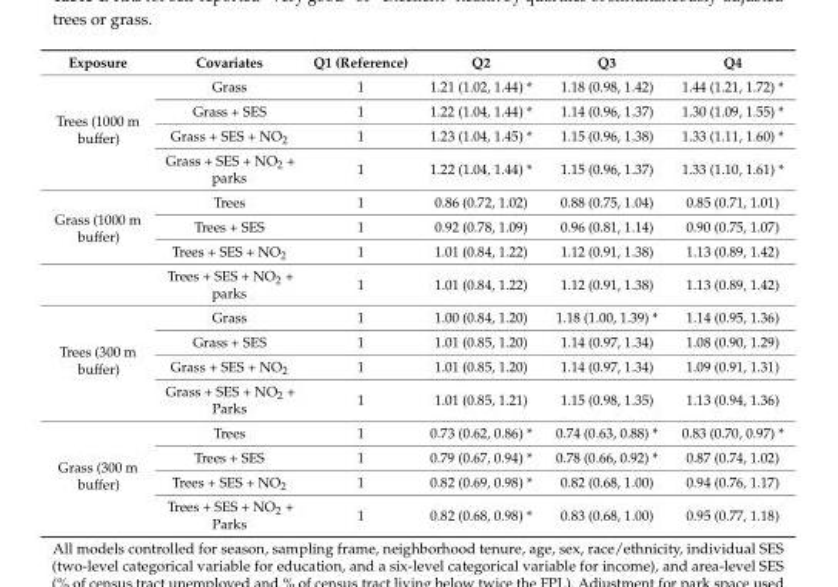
<table><thead><tr><td>Exposure</td><td>Covariates</td><td>Q1 (Reference)</td><td>Q2</td><td>Q3</td><td>Q4</td></tr></thead><tbody><tr><td rowspan="4">Trees (1000 m buffer)</td><td>Grass</td><td>1</td><td>1.21 (1.02, 1.44) *</td><td>1.18 (0.98, 1.42)</td><td>1.44 (1.21, 1.72) *</td></tr><tr><td>Grass + SES</td><td>1</td><td>1.22 (1.04, 1.44) *</td><td>1.14 (0.96, 1.37)</td><td>1.30 (1.09, 1.55) *</td></tr><tr><td>Grass + SES + NO<sub>2</sub></td><td>1</td><td>1.23 (1.04, 1.45) *</td><td>1.15 (0.96, 1.38)</td><td>1.33 (1.11, 1.60) *</td></tr><tr><td>Grass + SES + NO<sub>2</sub> + parks</td><td>1</td><td>1.22 (1.04, 1.44) *</td><td>1.15 (0.96, 1.37)</td><td>1.33 (1.10, 1.61) *</td></tr><tr><td rowspan="4">Grass (1000 m buffer)</td><td>Trees</td><td>1</td><td>0.86 (0.72, 1.02)</td><td>0.88 (0.75, 1.04)</td><td>0.85 (0.71, 1.01)</td></tr><tr><td>Trees + SES</td><td>1</td><td>0.92 (0.78, 1.09)</td><td>0.96 (0.81, 1.14)</td><td>0.90 (0.75, 1.07)</td></tr><tr><td>Trees + SES + NO<sub>2</sub></td><td>1</td><td>1.01 (0.84, 1.22)</td><td>1.12 (0.91, 1.38)</td><td>1.13 (0.89, 1.42)</td></tr><tr><td>Trees + SES + NO<sub>2</sub> + parks</td><td>1</td><td>1.01 (0.84, 1.22)</td><td>1.12 (0.91, 1.38)</td><td>1.13 (0.89, 1.42)</td></tr><tr><td rowspan="4">Trees (300 m buffer)</td><td>Grass</td><td>1</td><td>1.00 (0.84, 1.20)</td><td>1.18 (1.00, 1.39) *</td><td>1.14 (0.95, 1.36)</td></tr><tr><td>Grass + SES</td><td>1</td><td>1.01 (0.85, 1.20)</td><td>1.14 (0.97, 1.34)</td><td>1.08 (0.90, 1.29)</td></tr><tr><td>Grass + SES + NO<sub>2</sub></td><td>1</td><td>1.01 (0.85, 1.20)</td><td>1.14 (0.97, 1.34)</td><td>1.09 (0.91, 1.31)</td></tr><tr><td>Grass + SES + NO<sub>2</sub> + Parks</td><td>1</td><td>1.01 (0.85, 1.21)</td><td>1.15 (0.98, 1.35)</td><td>1.13 (0.94, 1.36)</td></tr><tr><td rowspan="4">Grass (300 m buffer)</td><td>Trees</td><td>1</td><td>0.73 (0.62, 0.86) *</td><td>0.74 (0.63, 0.88) *</td><td>0.83 (0.70, 0.97) *</td></tr><tr><td>Trees + SES</td><td>1</td><td>0.79 (0.67, 0.94) *</td><td>0.78 (0.66, 0.92) *</td><td>0.87 (0.74, 1.02)</td></tr><tr><td>Trees + SES + NO<sub>2</sub></td><td>1</td><td>0.82 (0.69, 0.98) *</td><td>0.82 (0.68, 1.00)</td><td>0.94 (0.76, 1.17)</td></tr><tr><td>Trees + SES + NO<sub>2</sub> + Parks</td><td>1</td><td>0.82 (0.68, 0.98) *</td><td>0.83 (0.68, 1.00)</td><td>0.95 (0.77, 1.18)</td></tr></tbody></table>